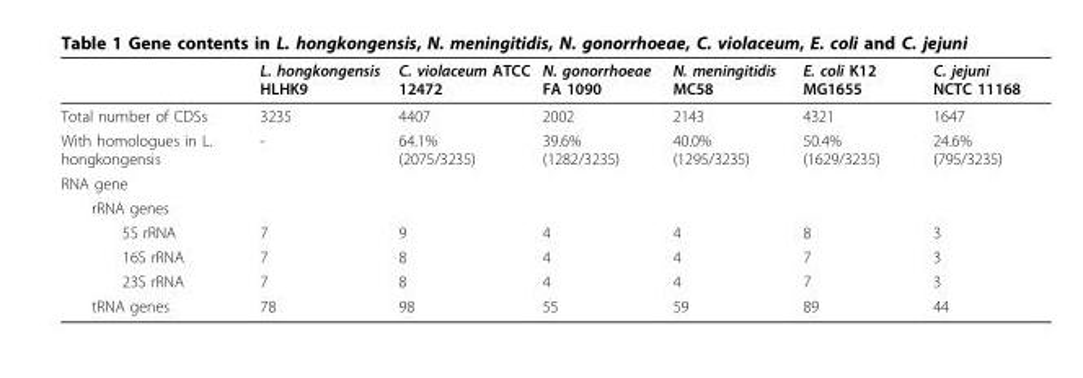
<table><thead><tr><td></td><td>L. hongkongensis HLHK9</td><td>C. violaceum ATCC 12472</td><td>N. gonorrhoeae FA 1090</td><td>N. meningitidis MC58</td><td>E. coli K12 MG1655</td><td>C. jejuni NCTC 11168</td></tr></thead><tbody><tr><td>Total number of CDSs</td><td>3235</td><td>4407</td><td>2002</td><td>2143</td><td>4321</td><td>1647</td></tr><tr><td>With homologues in L. hongkongensis</td><td>-</td><td>64.1% (2075/3235)</td><td>39.6% (1282/3235)</td><td>40.0% (1295/3235)</td><td>50.4% (1629/3235)</td><td>24.6% (795/3235)</td></tr><tr><td colspan="7">RNA gene</td></tr><tr><td colspan="7">rRNA genes</td></tr><tr><td>5S rRNA</td><td>7</td><td>9</td><td>4</td><td>4</td><td>8</td><td>3</td></tr><tr><td>16S rRNA</td><td>7</td><td>8</td><td>4</td><td>4</td><td>7</td><td>3</td></tr><tr><td>23S rRNA</td><td>7</td><td>8</td><td>4</td><td>4</td><td>7</td><td>3</td></tr><tr><td>tRNA genes</td><td>78</td><td>98</td><td>55</td><td>59</td><td>89</td><td>44</td></tr></tbody></table>